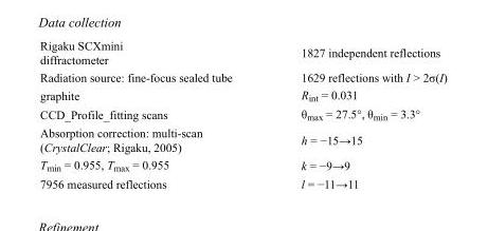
<table><tbody><tr><td>Rigaku SCXmini diffractometer</td><td>1827 independent reflections</td></tr><tr><td>Radiation source: fine-focus sealed tube</td><td>1629 reflections with I &gt; 2σ(I)</td></tr><tr><td>graphite</td><td>R<sub>int</sub> = 0.031</td></tr><tr><td>CCD_Profile_fitting scans</td><td>θ<sub>max</sub> = 27.5°, θ<sub>min</sub> = 3.3°</td></tr><tr><td>Absorption correction: multi-scan (CrystalClear; Rigaku, 2005)</td><td>h = −15→15</td></tr><tr><td>T<sub>min</sub> = 0.955, T<sub>max</sub> = 0.955</td><td>k = −9→9</td></tr><tr><td>7956 measured reflections</td><td>l = −11→11</td></tr></tbody></table>